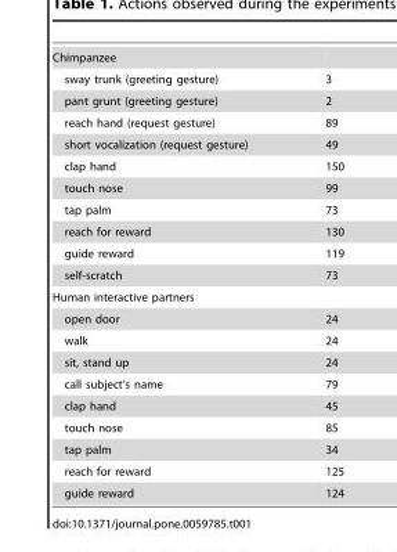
<table><tbody><tr><td colspan="2">Chimpanzee</td></tr><tr><td>sway trunk (greeting gesture)</td><td>3</td></tr><tr><td>pant grunt (greeting gesture)</td><td>2</td></tr><tr><td>reach hand (request gesture)</td><td>89</td></tr><tr><td>short vocalization (request gesture)</td><td>49</td></tr><tr><td>clap hand</td><td>150</td></tr><tr><td>touch nose</td><td>99</td></tr><tr><td>tap palm</td><td>73</td></tr><tr><td>reach for reward</td><td>130</td></tr><tr><td>guide reward</td><td>119</td></tr><tr><td>self-scratch</td><td>73</td></tr><tr><td colspan="2">Human interactive partners</td></tr><tr><td>open door</td><td>24</td></tr><tr><td>walk</td><td>24</td></tr><tr><td>sit, stand up</td><td>24</td></tr><tr><td>call subject’s name</td><td>79</td></tr><tr><td>clap hand</td><td>45</td></tr><tr><td>touch nose</td><td>85</td></tr><tr><td>tap palm</td><td>34</td></tr><tr><td>reach for reward</td><td>125</td></tr><tr><td>guide reward</td><td>124</td></tr></tbody></table>